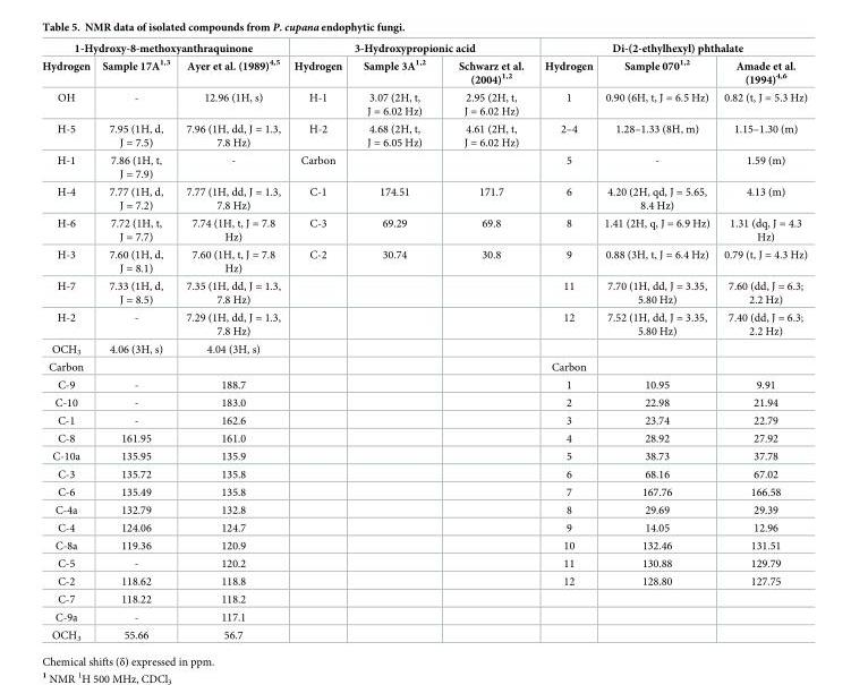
<table><thead><tr><td colspan="3">1-Hydroxy-8-methoxyanthraquinone</td><td colspan="3">3-Hydroxypropionic acid</td><td colspan="3">Di-(2-ethylhexyl) phthalate</td></tr><tr><td>Hydrogen</td><td>Sample 17A<sup>1,3</sup></td><td>Ayer et al. (1989)<sup>4,5</sup></td><td>Hydrogen</td><td>Sample 3A<sup>1,2</sup></td><td>Schwarz et al. (2004)<sup>1,2</sup></td><td>Hydrogen</td><td>Sample 070<sup>1,2</sup></td><td>Amade et al. (1994)<sup>4,6</sup></td></tr></thead><tbody><tr><td>OH</td><td>-</td><td>12.96 (1H, s)</td><td>H-1</td><td>3.07 (2H, t, J = 6.02 Hz)</td><td>2.95 (2H, t, J = 6.02 Hz)</td><td>1</td><td>0.90 (6H, t, J = 6.5 Hz)</td><td>0.82 (t, J = 5.3 Hz)</td></tr><tr><td>H-5</td><td>7.95 (1H, d, J = 7.5)</td><td>7.96 (1H, dd, J = 1.3, 7.8 Hz)</td><td>H-2</td><td>4.68 (2H, t, J = 6.05 Hz)</td><td>4.61 (2H, t, J = 6.02 Hz)</td><td>2–4</td><td>1.28–1.33 (8H, m)</td><td>1.15–1.30 (m)</td></tr><tr><td>H-1</td><td>7.86 (1H, t, J = 7.9)</td><td>-</td><td>Carbon</td><td></td><td></td><td>5</td><td>-</td><td>1.59 (m)</td></tr><tr><td>H-4</td><td>7.77 (1H, d, J = 7.2)</td><td>7.77 (1H, dd, J = 1.3, 7.8 Hz)</td><td>C-1</td><td>174.51</td><td>171.7</td><td>6</td><td>4.20 (2H, qd, J = 5.65, 8.4 Hz)</td><td>4.13 (m)</td></tr><tr><td>H-6</td><td>7.72 (1H, t, J = 7.7)</td><td>7.74 (1H, t, J = 7.8 Hz)</td><td>C-3</td><td>69.29</td><td>69.8</td><td>8</td><td>1.41 (2H, q, J = 6.9 Hz)</td><td>1.31 (dq, J = 4.3 Hz)</td></tr><tr><td>H-3</td><td>7.60 (1H, d, J = 8.1)</td><td>7.60 (1H, t, J = 7.8 Hz)</td><td>C-2</td><td>30.74</td><td>30.8</td><td>9</td><td>0.88 (3H, t, J = 6.4 Hz)</td><td>0.79 (t, J = 4.3 Hz)</td></tr><tr><td>H-7</td><td>7.33 (1H, d, J = 8.5)</td><td>7.35 (1H, dd, J = 1.3, 7.8 Hz)</td><td></td><td></td><td></td><td>11</td><td>7.70 (1H, dd, J = 3.35, 5.80 Hz)</td><td>7.60 (dd, J = 6.3; 2.2 Hz)</td></tr><tr><td>H-2</td><td>-</td><td>7.29 (1H, dd, J = 1.3, 7.8 Hz)</td><td></td><td></td><td></td><td>12</td><td>7.52 (1H, dd, J = 3.35, 5.80 Hz)</td><td>7.40 (dd, J = 6.3; 2.2 Hz)</td></tr><tr><td>OCH<sub>3</sub></td><td>4.06 (3H, s)</td><td>4.04 (3H, s)</td><td></td><td></td><td></td><td></td><td></td><td></td></tr><tr><td>Carbon</td><td></td><td></td><td></td><td></td><td></td><td>Carbon</td><td></td><td></td></tr><tr><td>C-9</td><td>-</td><td>188.7</td><td></td><td></td><td></td><td>1</td><td>10.95</td><td>9.91</td></tr><tr><td>C-10</td><td>-</td><td>183.0</td><td></td><td></td><td></td><td>2</td><td>22.98</td><td>21.94</td></tr><tr><td>C-1</td><td>-</td><td>162.6</td><td></td><td></td><td></td><td>3</td><td>23.74</td><td>22.79</td></tr><tr><td>C-8</td><td>161.95</td><td>161.0</td><td></td><td></td><td></td><td>4</td><td>28.92</td><td>27.92</td></tr><tr><td>C-10a</td><td>135.95</td><td>135.9</td><td></td><td></td><td></td><td>5</td><td>38.73</td><td>37.78</td></tr><tr><td>C-3</td><td>135.72</td><td>135.8</td><td></td><td></td><td></td><td>6</td><td>68.16</td><td>67.02</td></tr><tr><td>C-6</td><td>135.49</td><td>135.8</td><td></td><td></td><td></td><td>7</td><td>167.76</td><td>166.58</td></tr><tr><td>C-4a</td><td>132.79</td><td>132.8</td><td></td><td></td><td></td><td>8</td><td>29.69</td><td>29.39</td></tr><tr><td>C-4</td><td>124.06</td><td>124.7</td><td></td><td></td><td></td><td>9</td><td>14.05</td><td>12.96</td></tr><tr><td>C-8a</td><td>119.36</td><td>120.9</td><td></td><td></td><td></td><td>10</td><td>132.46</td><td>131.51</td></tr><tr><td>C-5</td><td>-</td><td>120.2</td><td></td><td></td><td></td><td>11</td><td>130.88</td><td>129.79</td></tr><tr><td>C-2</td><td>118.62</td><td>118.8</td><td></td><td></td><td></td><td>12</td><td>128.80</td><td>127.75</td></tr><tr><td>C-7</td><td>118.22</td><td>118.2</td><td></td><td></td><td></td><td></td><td></td><td></td></tr><tr><td>C-9a</td><td>-</td><td>117.1</td><td></td><td></td><td></td><td></td><td></td><td></td></tr><tr><td>OCH<sub>3</sub></td><td>55.66</td><td>56.7</td><td></td><td></td><td></td><td></td><td></td><td></td></tr></tbody></table>